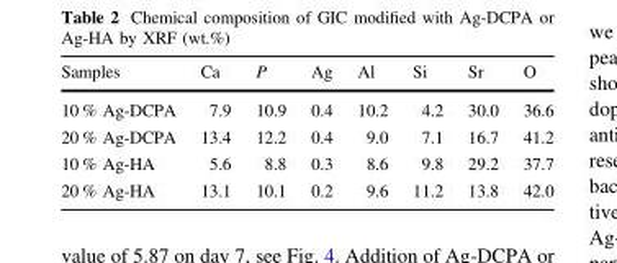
<table><thead><tr><td>Samples</td><td>Ca</td><td>P</td><td>Ag</td><td>Al</td><td>Si</td><td>Sr</td><td>O</td></tr></thead><tbody><tr><td>10 % Ag-DCPA</td><td>7.9</td><td>10.9</td><td>0.4</td><td>10.2</td><td>4.2</td><td>30.0</td><td>36.6</td></tr><tr><td>20 % Ag-DCPA</td><td>13.4</td><td>12.2</td><td>0.4</td><td>9.0</td><td>7.1</td><td>16.7</td><td>41.2</td></tr><tr><td>10 % Ag-HA</td><td>5.6</td><td>8.8</td><td>0.3</td><td>8.6</td><td>9.8</td><td>29.2</td><td>37.7</td></tr><tr><td>20 % Ag-HA</td><td>13.1</td><td>10.1</td><td>0.2</td><td>9.6</td><td>11.2</td><td>13.8</td><td>42.0</td></tr></tbody></table>